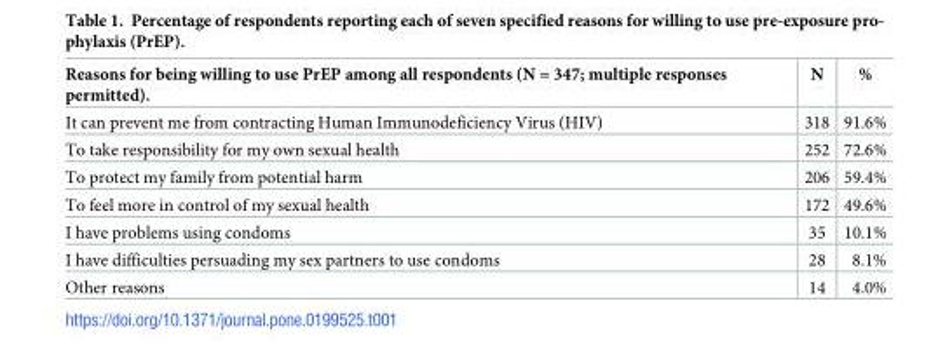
<table><thead><tr><td>Reasons for being willing to use PrEP among all respondents (N = 347; multiple responses permitted).</td><td>N</td><td>%</td></tr></thead><tbody><tr><td>It can prevent me from contracting Human Immunodeficiency Virus (HIV)</td><td>318</td><td>91.6%</td></tr><tr><td>To take responsibility for my own sexual health</td><td>252</td><td>72.6%</td></tr><tr><td>To protect my family from potential harm</td><td>206</td><td>59.4%</td></tr><tr><td>To feel more in control of my sexual health</td><td>172</td><td>49.6%</td></tr><tr><td>I have problems using condoms</td><td>35</td><td>10.1%</td></tr><tr><td>I have difficulties persuading my sex partners to use condoms</td><td>28</td><td>8.1%</td></tr><tr><td>Other reasons</td><td>14</td><td>4.0%</td></tr></tbody></table>